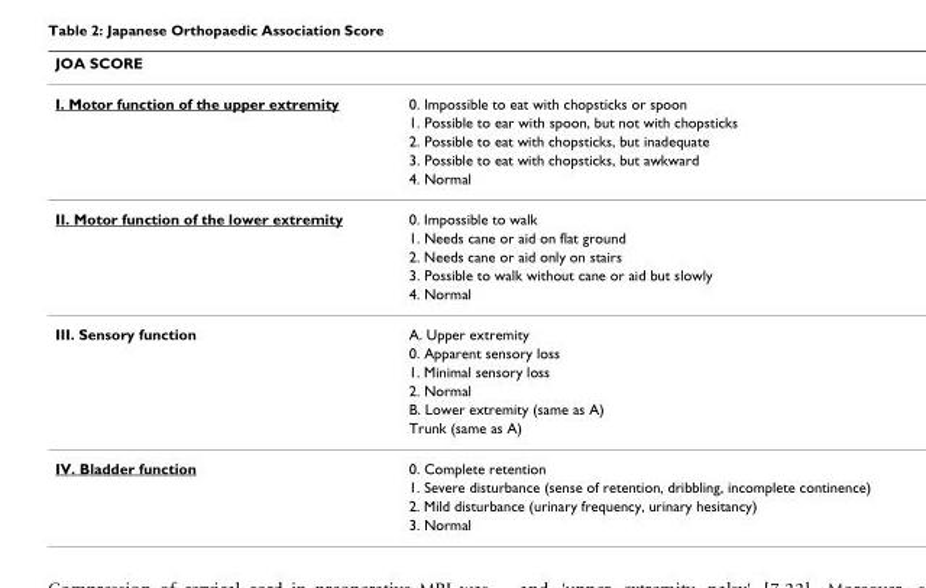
<table><thead><tr><td>JOA SCORE</td><td></td></tr></thead><tbody><tr><td rowspan="5">I. Motor function of the upper extremity</td><td>0. Impossible to eat with chopsticks or spoon</td></tr><tr><td>1. Possible to ear with spoon, but not with chopsticks</td></tr><tr><td>2. Possible to eat with chopsticks, but inadequate</td></tr><tr><td>3. Possible to eat with chopsticks, but awkward</td></tr><tr><td>4. Normal</td></tr><tr><td rowspan="5">II. Motor function of the lower extremity</td><td>0. Impossible to walk</td></tr><tr><td>1. Needs cane or aid on flat ground</td></tr><tr><td>2. Needs cane or aid only on stairs</td></tr><tr><td>3. Possible to walk without cane or aid but slowly</td></tr><tr><td>4. Normal</td></tr><tr><td rowspan="6">III. Sensory function</td><td>A. Upper extremity</td></tr><tr><td>0. Apparent sensory loss</td></tr><tr><td>1. Minimal sensory loss</td></tr><tr><td>2. Normal</td></tr><tr><td>B. Lower extremity (same as A)</td></tr><tr><td>Trunk (same as A)</td></tr><tr><td rowspan="4">IV. Bladder function</td><td>0. Complete retention</td></tr><tr><td>1. Severe disturbance (sense of retention, dribbling, incomplete continence)</td></tr><tr><td>2. Mild disturbance (urinary frequency, urinary hesitancy)</td></tr><tr><td>3. Normal</td></tr></tbody></table>